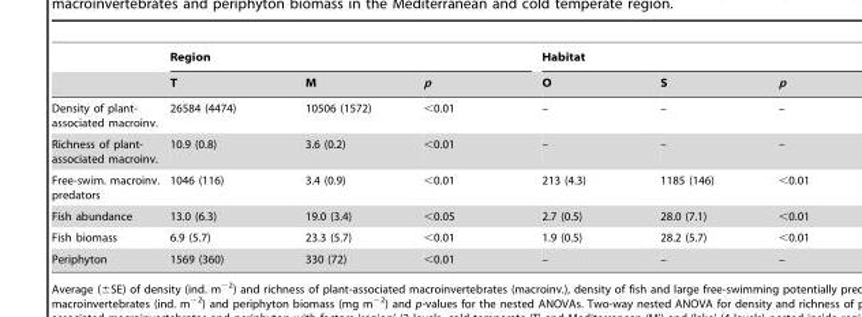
<table><thead><tr><td rowspan="2"></td><td colspan="3">Region</td><td colspan="3">Habitat</td></tr><tr><td>T</td><td>M</td><td>p</td><td>O</td><td>S</td><td>p</td></tr></thead><tbody><tr><td>Density of plant- associated macroinv.</td><td>26584 (4474)</td><td>10506 (1572)</td><td>&lt;0.01</td><td>–</td><td>–</td><td>–</td></tr><tr><td>Richness of plant- associated macroinv.</td><td>10.9 (0.8)</td><td>3.6 (0.2)</td><td>&lt;0.01</td><td>–</td><td>–</td><td>–</td></tr><tr><td>Free-swim. macroinv. predators</td><td>1046 (116)</td><td>3.4 (0.9)</td><td>&lt;0.01</td><td>213 (4.3)</td><td>1185 (146)</td><td>&lt;0.01</td></tr><tr><td>Fish abundance</td><td>13.0 (6.3)</td><td>19.0 (3.4)</td><td>&lt;0.05</td><td>2.7 (0.5)</td><td>28.0 (7.1)</td><td>&lt;0.01</td></tr><tr><td>Fish biomass</td><td>6.9 (5.7)</td><td>23.3 (5.7)</td><td>&lt;0.01</td><td>1.9 (0.5)</td><td>28.2 (5.7)</td><td>&lt;0.01</td></tr><tr><td>Periphyton</td><td>1569 (360)</td><td>330 (72)</td><td>&lt;0.01</td><td>–</td><td>–</td><td>–</td></tr></tbody></table>